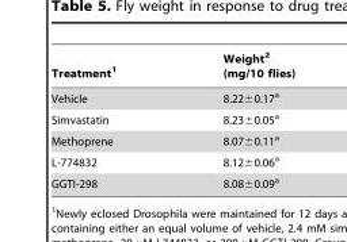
<table><thead><tr><td>Treatment<sup>1</sup></td><td>Weight<sup>2</sup> (mg/10 flies)</td></tr></thead><tbody><tr><td>Vehicle</td><td>8.22±0.17<sup>a</sup></td></tr><tr><td>Simvastatin</td><td>8.23±0.05<sup>a</sup></td></tr><tr><td>Methoprene</td><td>8.07±0.11<sup>a</sup></td></tr><tr><td>L-774832</td><td>8.12±0.06<sup>a</sup></td></tr><tr><td>GGTI-298</td><td>8.08±0.09<sup>a</sup></td></tr></tbody></table>